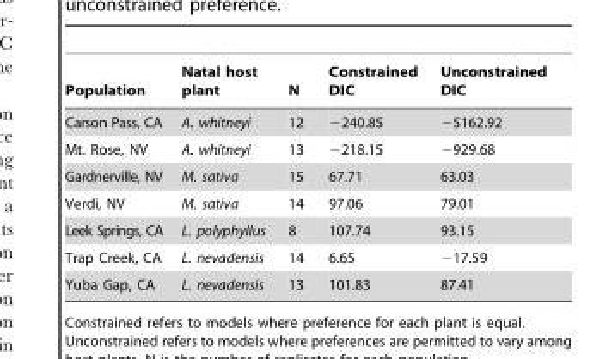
<table><thead><tr><td>Population</td><td>Natal host plant</td><td>N</td><td>Constrained DIC</td><td>Unconstrained DIC</td></tr></thead><tbody><tr><td>Carson Pass, CA</td><td>A. whitneyi</td><td>12</td><td>−240.85</td><td>−5162.92</td></tr><tr><td>Mt. Rose, NV</td><td>A. whitneyi</td><td>13</td><td>−218.15</td><td>−929.68</td></tr><tr><td>Gardnerville, NV</td><td>M. sativa</td><td>15</td><td>67.71</td><td>63.03</td></tr><tr><td>Verdi, NV</td><td>M. sativa</td><td>14</td><td>97.06</td><td>79.01</td></tr><tr><td>Leek Springs, CA</td><td>L. polyphyllus</td><td>8</td><td>107.74</td><td>93.15</td></tr><tr><td>Trap Creek, CA</td><td>L. nevadensis</td><td>14</td><td>6.65</td><td>−17.59</td></tr><tr><td>Yuba Gap, CA</td><td>L. nevadensis</td><td>13</td><td>101.83</td><td>87.41</td></tr></tbody></table>